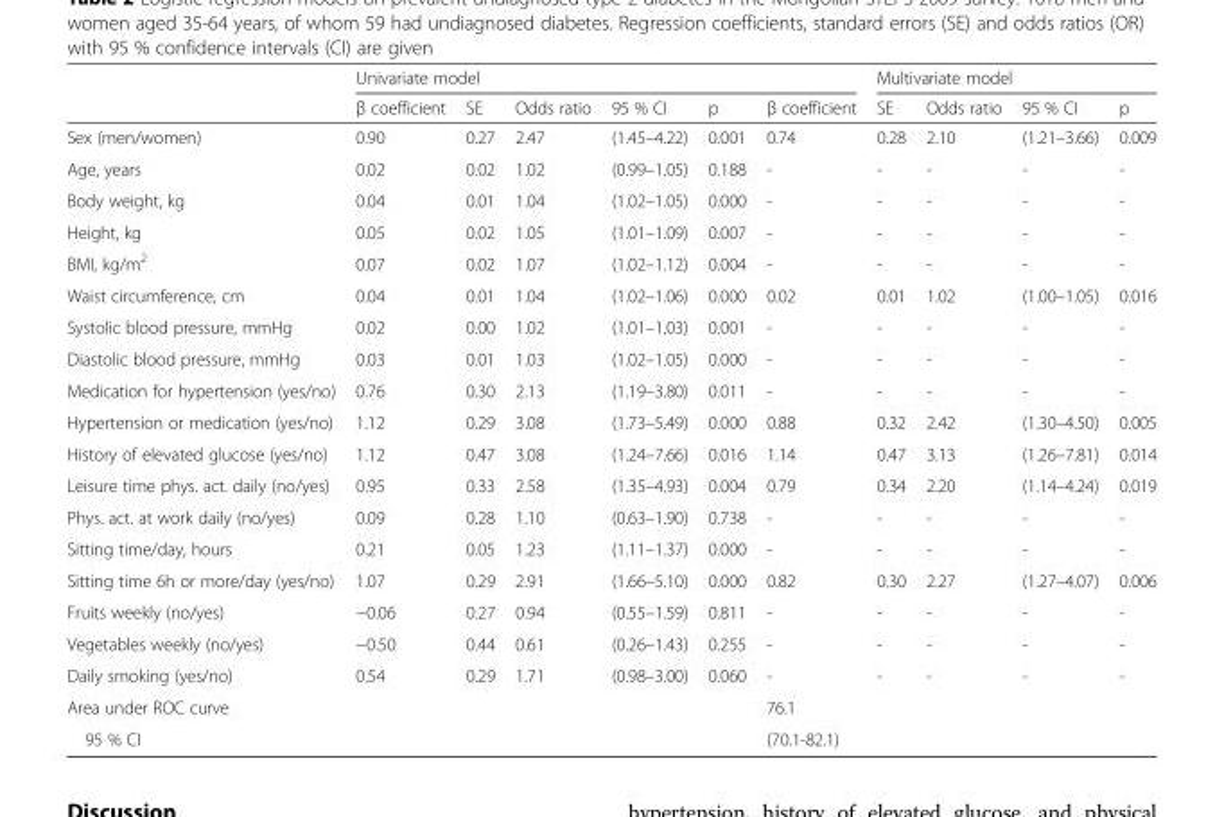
<table><thead><tr><td rowspan="2"></td><td colspan="6">Univariate model</td><td colspan="4">Multivariate model</td></tr><tr><td>β coefficient</td><td>SE</td><td>Odds ratio</td><td>95 % CI</td><td>p</td><td>β coefficient</td><td>SE</td><td>Odds ratio</td><td>95 % CI</td><td>p</td></tr></thead><tbody><tr><td>Sex (men/women)</td><td>0.90</td><td>0.27</td><td>2.47</td><td>(1.45–4.22)</td><td>0.001</td><td>0.74</td><td>0.28</td><td>2.10</td><td>(1.21–3.66)</td><td>0.009</td></tr><tr><td>Age, years</td><td>0.02</td><td>0.02</td><td>1.02</td><td>(0.99–1.05)</td><td>0.188</td><td>-</td><td>-</td><td>-</td><td>-</td><td>-</td></tr><tr><td>Body weight, kg</td><td>0.04</td><td>0.01</td><td>1.04</td><td>(1.02–1.05)</td><td>0.000</td><td>-</td><td>-</td><td>-</td><td>-</td><td>-</td></tr><tr><td>Height, kg</td><td>0.05</td><td>0.02</td><td>1.05</td><td>(1.01–1.09)</td><td>0.007</td><td>-</td><td>-</td><td>-</td><td>-</td><td>-</td></tr><tr><td>BMI, kg/m<sup>2</sup></td><td>0.07</td><td>0.02</td><td>1.07</td><td>(1.02–1.12)</td><td>0.004</td><td>-</td><td>-</td><td>-</td><td>-</td><td>-</td></tr><tr><td>Waist circumference, cm</td><td>0.04</td><td>0.01</td><td>1.04</td><td>(1.02–1.06)</td><td>0.000</td><td>0.02</td><td>0.01</td><td>1.02</td><td>(1.00–1.05)</td><td>0.016</td></tr><tr><td>Systolic blood pressure, mmHg</td><td>0.02</td><td>0.00</td><td>1.02</td><td>(1.01–1.03)</td><td>0.001</td><td>-</td><td>-</td><td>-</td><td>-</td><td>-</td></tr><tr><td>Diastolic blood pressure, mmHg</td><td>0.03</td><td>0.01</td><td>1.03</td><td>(1.02–1.05)</td><td>0.000</td><td>-</td><td>-</td><td>-</td><td>-</td><td>-</td></tr><tr><td>Medication for hypertension (yes/no)</td><td>0.76</td><td>0.30</td><td>2.13</td><td>(1.19–3.80)</td><td>0.011</td><td>-</td><td>-</td><td>-</td><td>-</td><td>-</td></tr><tr><td>Hypertension or medication (yes/no)</td><td>1.12</td><td>0.29</td><td>3.08</td><td>(1.73–5.49)</td><td>0.000</td><td>0.88</td><td>0.32</td><td>2.42</td><td>(1.30–4.50)</td><td>0.005</td></tr><tr><td>History of elevated glucose (yes/no)</td><td>1.12</td><td>0.47</td><td>3.08</td><td>(1.24–7.66)</td><td>0.016</td><td>1.14</td><td>0.47</td><td>3.13</td><td>(1.26–7.81)</td><td>0.014</td></tr><tr><td>Leisure time phys. act. daily (no/yes)</td><td>0.95</td><td>0.33</td><td>2.58</td><td>(1.35–4.93)</td><td>0.004</td><td>0.79</td><td>0.34</td><td>2.20</td><td>(1.14–4.24)</td><td>0.019</td></tr><tr><td>Phys. act. at work daily (no/yes)</td><td>0.09</td><td>0.28</td><td>1.10</td><td>(0.63–1.90)</td><td>0.738</td><td>-</td><td>-</td><td>-</td><td>-</td><td>-</td></tr><tr><td>Sitting time/day, hours</td><td>0.21</td><td>0.05</td><td>1.23</td><td>(1.11–1.37)</td><td>0.000</td><td>-</td><td>-</td><td>-</td><td>-</td><td>-</td></tr><tr><td>Sitting time 6h or more/day (yes/no)</td><td>1.07</td><td>0.29</td><td>2.91</td><td>(1.66–5.10)</td><td>0.000</td><td>0.82</td><td>0.30</td><td>2.27</td><td>(1.27–4.07)</td><td>0.006</td></tr><tr><td>Fruits weekly (no/yes)</td><td>−0.06</td><td>0.27</td><td>0.94</td><td>(0.55–1.59)</td><td>0.811</td><td>-</td><td>-</td><td>-</td><td>-</td><td>-</td></tr><tr><td>Vegetables weekly (no/yes)</td><td>−0.50</td><td>0.44</td><td>0.61</td><td>(0.26–1.43)</td><td>0.255</td><td>-</td><td>-</td><td>-</td><td>-</td><td>-</td></tr><tr><td>Daily smoking (yes/no)</td><td>0.54</td><td>0.29</td><td>1.71</td><td>(0.98–3.00)</td><td>0.060</td><td>-</td><td>-</td><td>-</td><td>-</td><td>-</td></tr><tr><td>Area under ROC curve</td><td></td><td></td><td></td><td></td><td></td><td>76.1</td><td></td><td></td><td></td><td></td></tr><tr><td>95 % CI</td><td></td><td></td><td></td><td></td><td></td><td>(70.1-82.1)</td><td></td><td></td><td></td><td></td></tr></tbody></table>